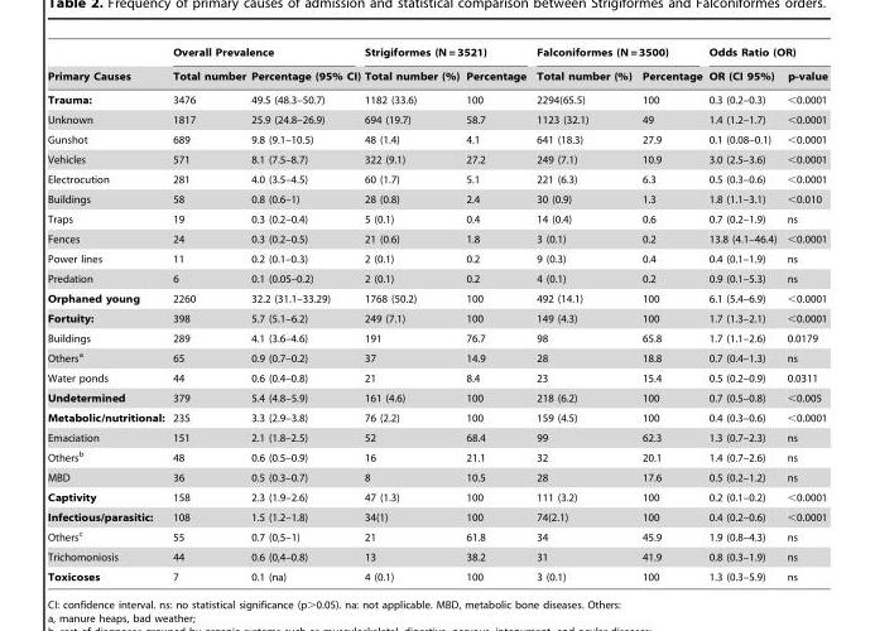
<table><thead><tr><td rowspan="3">Primary Causes Trauma:</td><td colspan="2">Overall Prevalence</td><td colspan="2">Strigiformes (N = 3521)</td><td colspan="2">Falconiformes (N = 3500)</td><td rowspan="2" colspan="2">Odds Ratio (OR) OR (CI 95%) p-value</td></tr><tr><td rowspan="2">Total number 3476</td><td rowspan="2">Percentage (95% CI) 49.5 (48.3–50.7)</td><td rowspan="2">Total number (%) 1182 (33.6)</td><td rowspan="2">Percentage 100</td><td rowspan="2">Total number (%) 2294(65.5)</td><td rowspan="2">Percentage 100</td></tr><tr><td>0.3 (0.2–0.3)</td><td>&lt;0.0001</td></tr></thead><tbody><tr><td>Unknown</td><td>1817</td><td>25.9 (24.8–26.9)</td><td>694 (19.7)</td><td>58.7</td><td>1123 (32.1)</td><td>49</td><td>1.4 (1.2–1.7)</td><td>&lt;0.0001</td></tr><tr><td>Gunshot</td><td>689</td><td>9.8 (9.1–10.5)</td><td>48 (1.4)</td><td>4.1</td><td>641 (18.3)</td><td>27.9</td><td>0.1 (0.08–0.1)</td><td>&lt;0.0001</td></tr><tr><td>Vehicles</td><td>571</td><td>8.1 (7.5–8.7)</td><td>322 (9.1)</td><td>27.2</td><td>249 (7.1)</td><td>10.9</td><td>3.0 (2.5–3.6)</td><td>&lt;0.0001</td></tr><tr><td>Electrocution</td><td>281</td><td>4.0 (3.5–4.5)</td><td>60 (1.7)</td><td>5.1</td><td>221 (6.3)</td><td>6.3</td><td>0.5 (0.3–0.6)</td><td>&lt;0.0001</td></tr><tr><td>Buildings</td><td>58</td><td>0.8 (0.6–1)</td><td>28 (0.8)</td><td>2.4</td><td>30 (0.9)</td><td>1.3</td><td>1.8 (1.1–3.1)</td><td>&lt;0.010</td></tr><tr><td>Traps</td><td>19</td><td>0.3 (0.2–0.4)</td><td>5 (0.1)</td><td>0.4</td><td>14 (0.4)</td><td>0.6</td><td>0.7 (0.2–1.9)</td><td>ns</td></tr><tr><td>Fences</td><td>24</td><td>0.3 (0.2–0.5)</td><td>21 (0.6)</td><td>1.8</td><td>3 (0.1)</td><td>0.2</td><td>13.8 (4.1–46.4)</td><td>&lt;0.0001</td></tr><tr><td>Power lines</td><td>11</td><td>0.2 (0.1–0.3)</td><td>2 (0.1)</td><td>0.2</td><td>9 (0.3)</td><td>0.4</td><td>0.4 (0.1–1.9)</td><td>ns</td></tr><tr><td>Predation</td><td>6</td><td>0.1 (0.05–0.2)</td><td>2 (0.1)</td><td>0.2</td><td>4 (0.1)</td><td>0.2</td><td>0.9 (0.1–5.3)</td><td>ns</td></tr><tr><td>Orphaned young</td><td>2260</td><td>32.2 (31.1–33.29)</td><td>1768 (50.2)</td><td>100</td><td>492 (14.1)</td><td>100</td><td>6.1 (5.4–6.9)</td><td>&lt;0.0001</td></tr><tr><td>Fortuity:</td><td>398</td><td>5.7 (5.1–6.2)</td><td>249 (7.1)</td><td>100</td><td>149 (4.3)</td><td>100</td><td>1.7 (1.3–2.1)</td><td>&lt;0.0001</td></tr><tr><td>Buildings</td><td>289</td><td>4.1 (3.6–4.6)</td><td>191</td><td>76.7</td><td>98</td><td>65.8</td><td>1.7 (1.1–2.6)</td><td>0.0179</td></tr><tr><td>Others<sup>a</sup></td><td>65</td><td>0.9 (0.7–0.2)</td><td>37</td><td>14.9</td><td>28</td><td>18.8</td><td>0.7 (0.4–1.3)</td><td>ns</td></tr><tr><td>Water ponds</td><td>44</td><td>0.6 (0.4–0.8)</td><td>21</td><td>8.4</td><td>23</td><td>15.4</td><td>0.5 (0.2–0.9)</td><td>0.0311</td></tr><tr><td>Undetermined</td><td>379</td><td>5.4 (4.8–5.9)</td><td>161 (4.6)</td><td>100</td><td>218 (6.2)</td><td>100</td><td>0.7 (0.5–0.8)</td><td>&lt;0.005</td></tr><tr><td>Metabolic/nutritional:</td><td>235</td><td>3.3 (2.9–3.8)</td><td>76 (2.2)</td><td>100</td><td>159 (4.5)</td><td>100</td><td>0.4 (0.3–0.6)</td><td>&lt;0.0001</td></tr><tr><td>Emaciation</td><td>151</td><td>2.1 (1.8–2.5)</td><td>52</td><td>68.4</td><td>99</td><td>62.3</td><td>1.3 (0.7–2.3)</td><td>ns</td></tr><tr><td>Others<sup>b</sup></td><td>48</td><td>0.6 (0.5–0.9)</td><td>16</td><td>21.1</td><td>32</td><td>20.1</td><td>1.4 (0.7–2.6)</td><td>ns</td></tr><tr><td>MBD</td><td>36</td><td>0.5 (0.3–0.7)</td><td>8</td><td>10.5</td><td>28</td><td>17.6</td><td>0.5 (0.2–1.2)</td><td>ns</td></tr><tr><td>Captivity</td><td>158</td><td>2.3 (1.9–2.6)</td><td>47 (1.3)</td><td>100</td><td>111 (3.2)</td><td>100</td><td>0.2 (0.1–0.2)</td><td>&lt;0.0001</td></tr><tr><td>Infectious/parasitic:</td><td>108</td><td>1.5 (1.2–1.8)</td><td>34(1)</td><td>100</td><td>74(2.1)</td><td>100</td><td>0.4 (0.2–0.6)</td><td>&lt;0.0001</td></tr><tr><td>Others<sup>c</sup></td><td>55</td><td>0.7 (0,5–1)</td><td>21</td><td>61.8</td><td>34</td><td>45.9</td><td>1.9 (0.8–4.3)</td><td>ns</td></tr><tr><td>Trichomoniosis</td><td>44</td><td>0.6 (0,4–0.8)</td><td>13</td><td>38.2</td><td>31</td><td>41.9</td><td>0.8 (0.3–1.9)</td><td>ns</td></tr><tr><td>Toxicoses</td><td>7</td><td>0.1 (na)</td><td>4 (0.1)</td><td>100</td><td>3 (0.1)</td><td>100</td><td>1.3 (0.3–5.9)</td><td>ns</td></tr></tbody></table>